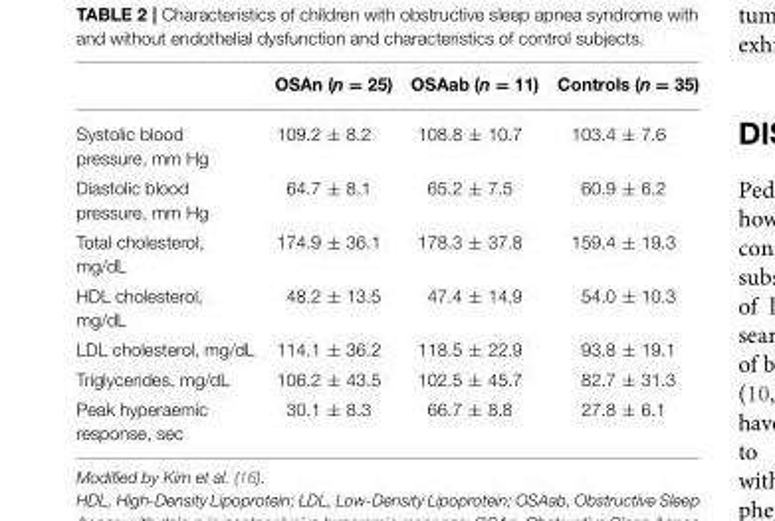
<table><thead><tr><td></td><td>OSAn (n = 25)</td><td>OSAab (n = 11)</td><td>Controls (n = 35)</td></tr></thead><tbody><tr><td>Systolic blood pressure, mm Hg</td><td>109.2 ± 8.2</td><td>108.8 ± 10.7</td><td>103.4 ± 7.6</td></tr><tr><td>Diastolic blood pressure, mm Hg</td><td>64.7 ± 8.1</td><td>65.2 ± 7.5</td><td>60.9 ± 6.2</td></tr><tr><td>Total cholesterol, mg/dL</td><td>174.9 ± 36.1</td><td>178.3 ± 37.8</td><td>159.4 ± 19.3</td></tr><tr><td>HDL cholesterol, mg/dL</td><td>48.2 ± 13.5</td><td>47.4 ± 14.9</td><td>54.0 ± 10.3</td></tr><tr><td>LDL cholesterol, mg/dL</td><td>114.1 ± 36.2</td><td>118.5 ± 22.9</td><td>93.8 ± 19.1</td></tr><tr><td>Triglycerides, mg/dL</td><td>106.2 ± 43.5</td><td>102.5 ± 45.7</td><td>82.7 ± 31.3</td></tr><tr><td>Peak hyperaemic response, sec</td><td>30.1 ± 8.3</td><td>66.7 ± 8.8</td><td>27.8 ± 6.1</td></tr></tbody></table>